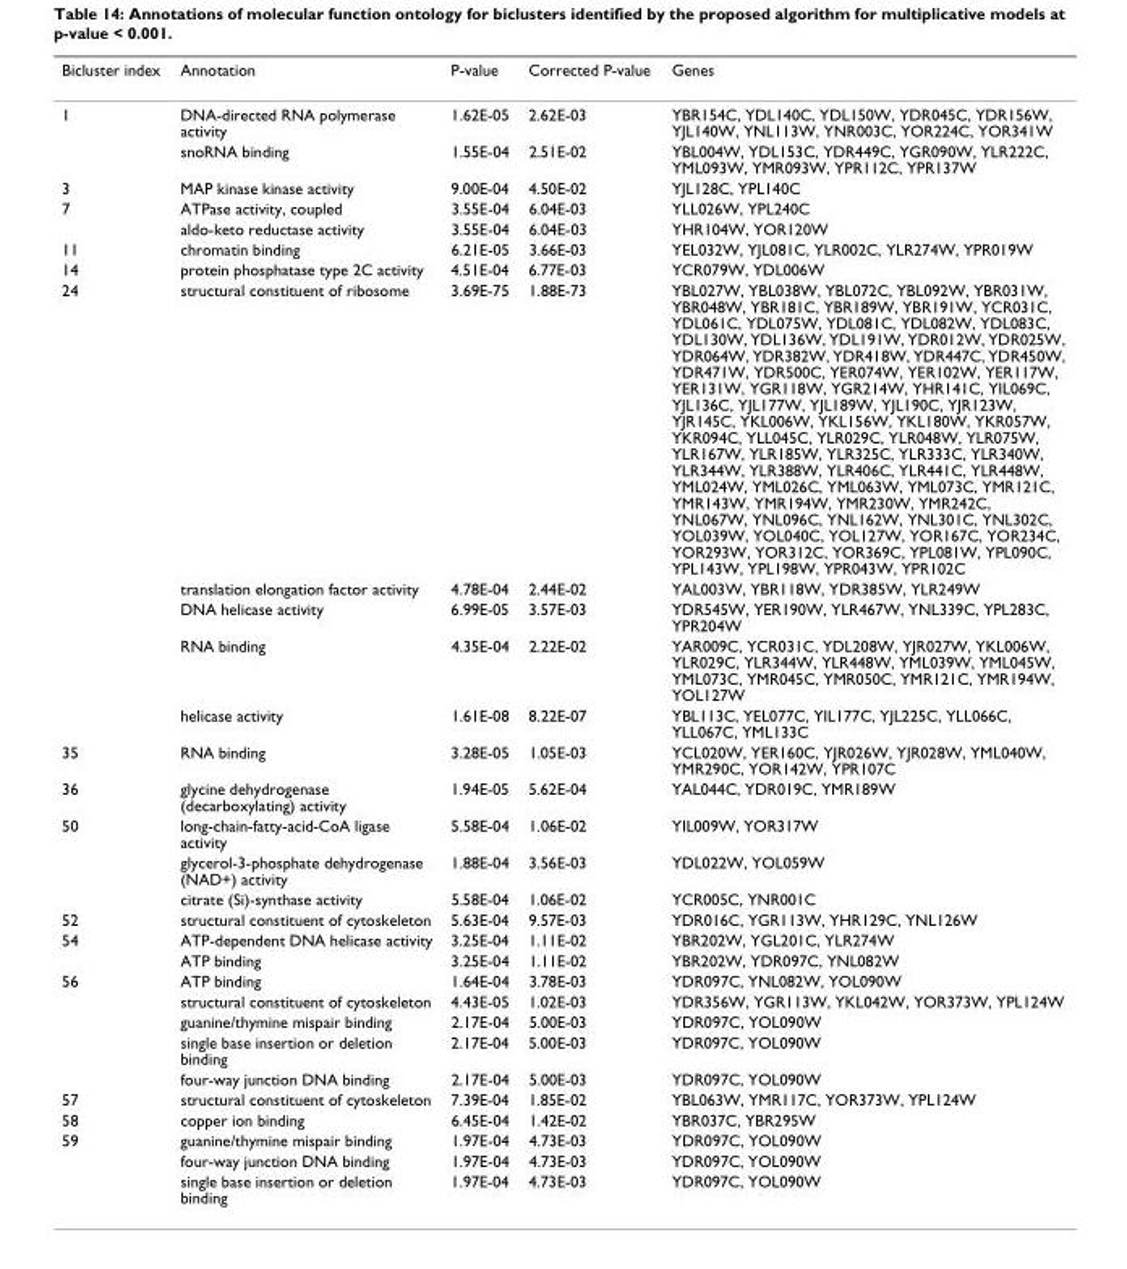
<table><thead><tr><td>Bicluster index</td><td>Annotation</td><td>P-value</td><td>Corrected P-value</td><td>Genes</td></tr></thead><tbody><tr><td rowspan="2">1</td><td>DNA-directed RNA polymerase activity</td><td>1.62E-05</td><td>2.62E-03</td><td>YBR154C, YDL140C, YDL150W, YDR045C, YDR156W, YJL140W, YNL113W, YNR003C, YOR224C, YOR341W</td></tr><tr><td>snoRNA binding</td><td>1.55E-04</td><td>2.51E-02</td><td>YBL004W, YDL153C, YDR449C, YGR090W, YLR222C, YML093W, YMR093W, YPR112C, YPR137W</td></tr><tr><td>3</td><td>MAP kinase kinase activity</td><td>9.00E-04</td><td>4.50E-02</td><td>YJL128C, YPL140C</td></tr><tr><td rowspan="2">7</td><td>ATPase activity, coupled</td><td>3.55E-04</td><td>6.04E-03</td><td>YLL026W, YPL240C</td></tr><tr><td>aldo-keto reductase activity</td><td>3.55E-04</td><td>6.04E-03</td><td>YHR104W, YOR120W</td></tr><tr><td>11</td><td>chromatin binding</td><td>6.21E-05</td><td>3.66E-03</td><td>YEL032W, YJL081C, YLR002C, YLR274W, YPR019W</td></tr><tr><td>14</td><td>protein phosphatase type 2C activity</td><td>4.51E-04</td><td>6.77E-03</td><td>YCR079W, YDL006W</td></tr><tr><td rowspan="5">24</td><td>structural constituent of ribosome</td><td>3.69E-75</td><td>1.88E-73</td><td>YBL027W, YBL038W, YBL072C, YBL092W, YBR031W, YBR048W, YBR181C, YBR189W, YBR191W, YCR031C, YDL061C, YDL075W, YDL081C, YDL082W, YDL083C, YDL130W, YDL136W, YDL191W, YDR012W, YDR025W, YDR064W, YDR382W, YDR418W, YDR447C, YDR450W, YDR471W, YDR500C, YER074W, YER102W, YER117W, YER131W, YGR118W, YGR214W, YHR141C, YIL069C, YJL136C, YJL177W, YJL189W, YJL190C, YJR123W, YJR145C, YKL006W, YKL156W, YKL180W, YKR057W, YKR094C, YLL045C, YLR029C, YLR048W, YLR075W, YLR167W, YLR185W, YLR325C, YLR333C, YLR340W, YLR344W, YLR388W, YLR406C, YLR441C, YLR448W, YML024W, YML026C, YML063W, YML073C, YMR121C, YMR143W, YMR194W, YMR230W, YMR242C, YNL067W, YNL096C, YNL162W, YNL301C, YNL302C, YOL039W, YOL040C, YOL127W, YOR167C, YOR234C, YOR293W, YOR312C, YOR369C, YPL081W, YPL090C, YPL143W, YPL198W, YPR043W, YPR102C</td></tr><tr><td>translation elongation factor activity</td><td>4.78E-04</td><td>2.44E-02</td><td>YAL003W, YBR118W, YDR385W, YLR249W</td></tr><tr><td>DNA helicase activity</td><td>6.99E-05</td><td>3.57E-03</td><td>YDR545W, YER190W, YLR467W, YNL339C, YPL283C, YPR204W</td></tr><tr><td>RNA binding</td><td>4.35E-04</td><td>2.22E-02</td><td>YAR009C, YCR031C, YDL208W, YJR027W, YKL006W, YLR029C, YLR344W, YLR448W, YML039W, YML045W, YML073C, YMR045C, YMR050C, YMR121C, YMR194W, YOL127W</td></tr><tr><td>helicase activity</td><td>1.61E-08</td><td>8.22E-07</td><td>YBL113C, YEL077C, YIL177C, YJL225C, YLL066C, YLL067C, YML133C</td></tr><tr><td>35</td><td>RNA binding</td><td>3.28E-05</td><td>1.05E-03</td><td>YCL020W, YER160C, YJR026W, YJR028W, YML040W, YMR290C, YOR142W, YPR107C</td></tr><tr><td>36</td><td>glycine dehydrogenase (decarboxylating) activity</td><td>1.94E-05</td><td>5.62E-04</td><td>YAL044C, YDR019C, YMR189W</td></tr><tr><td rowspan="3">50</td><td>long-chain-fatty-acid-CoA ligase activity</td><td>5.58E-04</td><td>1.06E-02</td><td>YIL009W, YOR317W</td></tr><tr><td>glycerol-3-phosphate dehydrogenase (NAD+) activity</td><td>1.88E-04</td><td>3.56E-03</td><td>YDL022W, YOL059W</td></tr><tr><td>citrate (Si)-synthase activity</td><td>5.58E-04</td><td>1.06E-02</td><td>YCR005C, YNR001C</td></tr><tr><td>52</td><td>structural constituent of cytoskeleton</td><td>5.63E-04</td><td>9.57E-03</td><td>YDR016C, YGR113W, YHR129C, YNL126W</td></tr><tr><td rowspan="2">54</td><td>ATP-dependent DNA helicase activity</td><td>3.25E-04</td><td>1.11E-02</td><td>YBR202W, YGL201C, YLR274W</td></tr><tr><td>ATP binding</td><td>3.25E-04</td><td>1.11E-02</td><td>YBR202W, YDR097C, YNL082W</td></tr><tr><td rowspan="5">56</td><td>ATP binding</td><td>1.64E-04</td><td>3.78E-03</td><td>YDR097C, YNL082W, YOL090W</td></tr><tr><td>structural constituent of cytoskeleton</td><td>4.43E-05</td><td>1.02E-03</td><td>YDR356W, YGR113W, YKL042W, YOR373W, YPL124W</td></tr><tr><td>guanine/thymine mispair binding</td><td>2.17E-04</td><td>5.00E-03</td><td>YDR097C, YOL090W</td></tr><tr><td>single base insertion or deletion binding</td><td>2.17E-04</td><td>5.00E-03</td><td>YDR097C, YOL090W</td></tr><tr><td>four-way junction DNA binding</td><td>2.17E-04</td><td>5.00E-03</td><td>YDR097C, YOL090W</td></tr><tr><td>57</td><td>structural constituent of cytoskeleton</td><td>7.39E-04</td><td>1.85E-02</td><td>YBL063W, YMR117C, YOR373W, YPL124W</td></tr><tr><td>58</td><td>copper ion binding</td><td>6.45E-04</td><td>1.42E-02</td><td>YBR037C, YBR295W</td></tr><tr><td rowspan="3">59</td><td>guanine/thymine mispair binding</td><td>1.97E-04</td><td>4.73E-03</td><td>YDR097C, YOL090W</td></tr><tr><td>four-way junction DNA binding</td><td>1.97E-04</td><td>4.73E-03</td><td>YDR097C, YOL090W</td></tr><tr><td>single base insertion or deletion binding</td><td>1.97E-04</td><td>4.73E-03</td><td>YDR097C, YOL090W</td></tr></tbody></table>